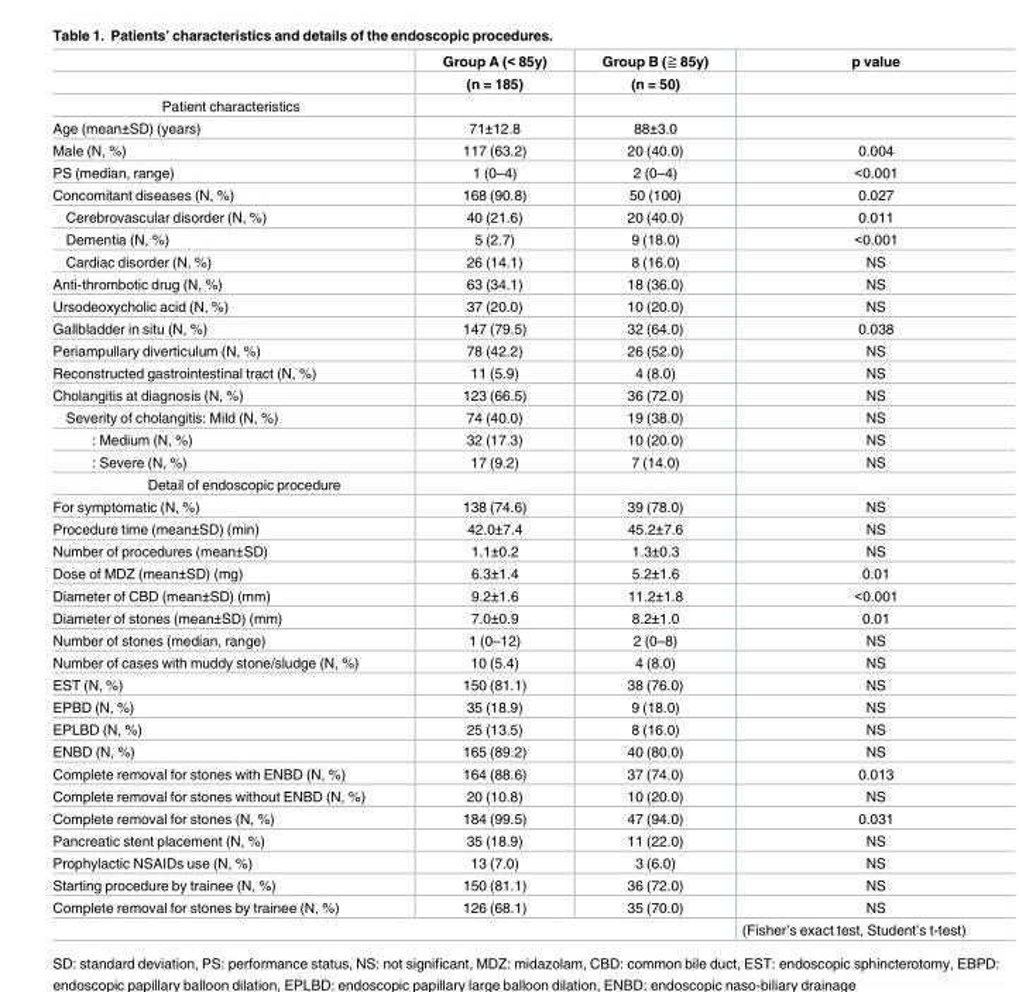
<table><thead><tr><td rowspan="2"></td><td rowspan="2">Group A (&lt; 85y) (n = 185)</td><td rowspan="2">Group B (≧ 85y) (n = 50)</td><td rowspan="2">p value</td></tr><tr></tr></thead><tbody><tr><td colspan="4">Patient characteristics</td></tr><tr><td>Age (mean±SD) (years)</td><td>71±12.8</td><td>88±3.0</td><td></td></tr><tr><td>Male (N, %)</td><td>117 (63.2)</td><td>20 (40.0)</td><td>0.004</td></tr><tr><td>PS (median, range)</td><td>1 (0–4)</td><td>2 (0–4)</td><td>&lt;0.001</td></tr><tr><td>Concomitant diseases (N, %)</td><td>168 (90.8)</td><td>50 (100)</td><td>0.027</td></tr><tr><td>Cerebrovascular disorder (N, %)</td><td>40 (21.6)</td><td>20 (40.0)</td><td>0.011</td></tr><tr><td>Dementia (N, %)</td><td>5 (2.7)</td><td>9 (18.0)</td><td>&lt;0.001</td></tr><tr><td>Cardiac disorder (N, %)</td><td>26 (14.1)</td><td>8 (16.0)</td><td>NS</td></tr><tr><td>Anti-thrombotic drug (N, %)</td><td>63 (34.1)</td><td>18 (36.0)</td><td>NS</td></tr><tr><td>Ursodeoxycholic acid (N, %)</td><td>37 (20.0)</td><td>10 (20.0)</td><td>NS</td></tr><tr><td>Gallbladder in situ (N, %)</td><td>147 (79.5)</td><td>32 (64.0)</td><td>0.038</td></tr><tr><td>Periampullary diverticulum (N, %)</td><td>78 (42.2)</td><td>26 (52.0)</td><td>NS</td></tr><tr><td>Reconstructed gastrointestinal tract (N, %)</td><td>11 (5.9)</td><td>4 (8.0)</td><td>NS</td></tr><tr><td>Cholangitis at diagnosis (N, %)</td><td>123 (66.5)</td><td>36 (72.0)</td><td>NS</td></tr><tr><td>Severity of cholangitis: Mild (N, %)</td><td>74 (40.0)</td><td>19 (38.0)</td><td>NS</td></tr><tr><td>: Medium (N, %)</td><td>32 (17.3)</td><td>10 (20.0)</td><td>NS</td></tr><tr><td>: Severe (N, %)</td><td>17 (9.2)</td><td>7 (14.0)</td><td>NS</td></tr><tr><td colspan="4">Detail of endoscopic procedure</td></tr><tr><td>For symptomatic (N, %)</td><td>138 (74.6)</td><td>39 (78.0)</td><td>NS</td></tr><tr><td>Procedure time (mean±SD) (min)</td><td>42.0±7.4</td><td>45.2±7.6</td><td>NS</td></tr><tr><td>Number of procedures (mean±SD)</td><td>1.1±0.2</td><td>1.3±0.3</td><td>NS</td></tr><tr><td>Dose of MDZ (mean±SD) (mg)</td><td>6.3±1.4</td><td>5.2±1.6</td><td>0.01</td></tr><tr><td>Diameter of CBD (mean±SD) (mm)</td><td>9.2±1.6</td><td>11.2±1.8</td><td>&lt;0.001</td></tr><tr><td>Diameter of stones (mean±SD) (mm)</td><td>7.0±0.9</td><td>8.2±1.0</td><td>0.01</td></tr><tr><td>Number of stones (median, range)</td><td>1 (0–12)</td><td>2 (0–8)</td><td>NS</td></tr><tr><td>Number of cases with muddy stone/sludge (N, %)</td><td>10 (5.4)</td><td>4 (8.0)</td><td>NS</td></tr><tr><td>EST (N, %)</td><td>150 (81.1)</td><td>38 (76.0)</td><td>NS</td></tr><tr><td>EPBD (N, %)</td><td>35 (18.9)</td><td>9 (18.0)</td><td>NS</td></tr><tr><td>EPLBD (N, %)</td><td>25 (13.5)</td><td>8 (16.0)</td><td>NS</td></tr><tr><td>ENBD (N, %)</td><td>165 (89.2)</td><td>40 (80.0)</td><td>NS</td></tr><tr><td>Complete removal for stones with ENBD (N, %)</td><td>164 (88.6)</td><td>37 (74.0)</td><td>0.013</td></tr><tr><td>Complete removal for stones without ENBD (N, %)</td><td>20 (10.8)</td><td>10 (20.0)</td><td>NS</td></tr><tr><td>Complete removal for stones (N, %)</td><td>184 (99.5)</td><td>47 (94.0)</td><td>0.031</td></tr><tr><td>Pancreatic stent placement (N, %)</td><td>35 (18.9)</td><td>11 (22.0)</td><td>NS</td></tr><tr><td>Prophylactic NSAIDs use (N, %)</td><td>13 (7.0)</td><td>3 (6.0)</td><td>NS</td></tr><tr><td>Starting procedure by trainee (N, %)</td><td>150 (81.1)</td><td>36 (72.0)</td><td>NS</td></tr><tr><td>Complete removal for stones by trainee (N, %)</td><td>126 (68.1)</td><td>35 (70.0)</td><td>NS</td></tr><tr><td colspan="3"></td><td>(Fisher’s exact test, Student’s t-test)</td></tr></tbody></table>